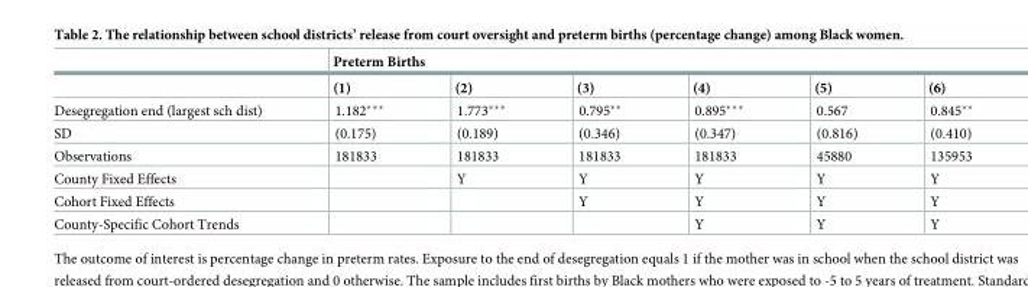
<table><thead><tr><td rowspan="2"></td><td colspan="6">Preterm Births</td></tr><tr><td>(1)</td><td>(2)</td><td>(3)</td><td>(4)</td><td>(5)</td><td>(6)</td></tr></thead><tbody><tr><td>Desegregation end (largest sch dist)</td><td>1.182***</td><td>1.773***</td><td>0.795**</td><td>0.895***</td><td>0.567</td><td>0.845**</td></tr><tr><td>SD</td><td>(0.175)</td><td>(0.189)</td><td>(0.346)</td><td>(0.347)</td><td>(0.816)</td><td>(0.410)</td></tr><tr><td>Observations</td><td>181833</td><td>181833</td><td>181833</td><td>181833</td><td>45880</td><td>135953</td></tr><tr><td>County Fixed Effects</td><td></td><td>Y</td><td>Y</td><td>Y</td><td>Y</td><td>Y</td></tr><tr><td>Cohort Fixed Effects</td><td></td><td></td><td>Y</td><td>Y</td><td>Y</td><td>Y</td></tr><tr><td>County-Specific Cohort Trends</td><td></td><td></td><td></td><td>Y</td><td>Y</td><td>Y</td></tr></tbody></table>